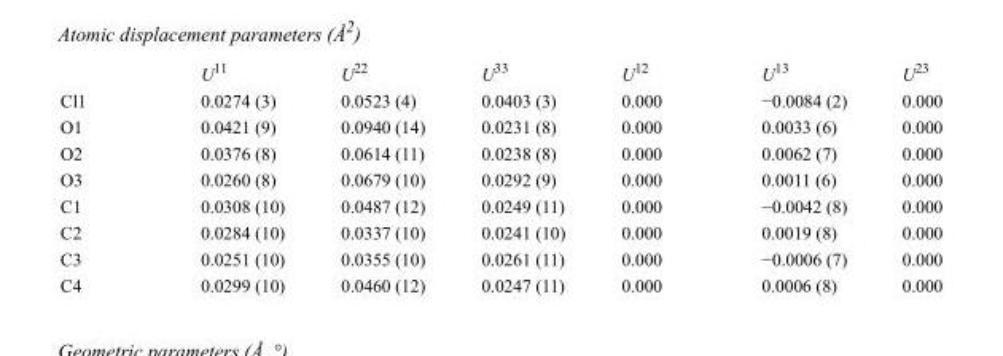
<table><thead><tr><td></td><td>U<sup>11</sup></td><td>U<sup>22</sup></td><td>U<sup>33</sup></td><td>U<sup>12</sup></td><td>U<sup>13</sup></td><td>U<sup>23</sup></td></tr></thead><tbody><tr><td>Cl1</td><td>0.0274 (3)</td><td>0.0523 (4)</td><td>0.0403 (3)</td><td>0.000</td><td>−0.0084 (2)</td><td>0.000</td></tr><tr><td>O1</td><td>0.0421 (9)</td><td>0.0940 (14)</td><td>0.0231 (8)</td><td>0.000</td><td>0.0033 (6)</td><td>0.000</td></tr><tr><td>O2</td><td>0.0376 (8)</td><td>0.0614 (11)</td><td>0.0238 (8)</td><td>0.000</td><td>0.0062 (7)</td><td>0.000</td></tr><tr><td>O3</td><td>0.0260 (8)</td><td>0.0679 (10)</td><td>0.0292 (9)</td><td>0.000</td><td>0.0011 (6)</td><td>0.000</td></tr><tr><td>C1</td><td>0.0308 (10)</td><td>0.0487 (12)</td><td>0.0249 (11)</td><td>0.000</td><td>−0.0042 (8)</td><td>0.000</td></tr><tr><td>C2</td><td>0.0284 (10)</td><td>0.0337 (10)</td><td>0.0241 (10)</td><td>0.000</td><td>0.0019 (8)</td><td>0.000</td></tr><tr><td>C3</td><td>0.0251 (10)</td><td>0.0355 (10)</td><td>0.0261 (11)</td><td>0.000</td><td>−0.0006 (7)</td><td>0.000</td></tr><tr><td>C4</td><td>0.0299 (10)</td><td>0.0460 (12)</td><td>0.0247 (11)</td><td>0.000</td><td>0.0006 (8)</td><td>0.000</td></tr></tbody></table>